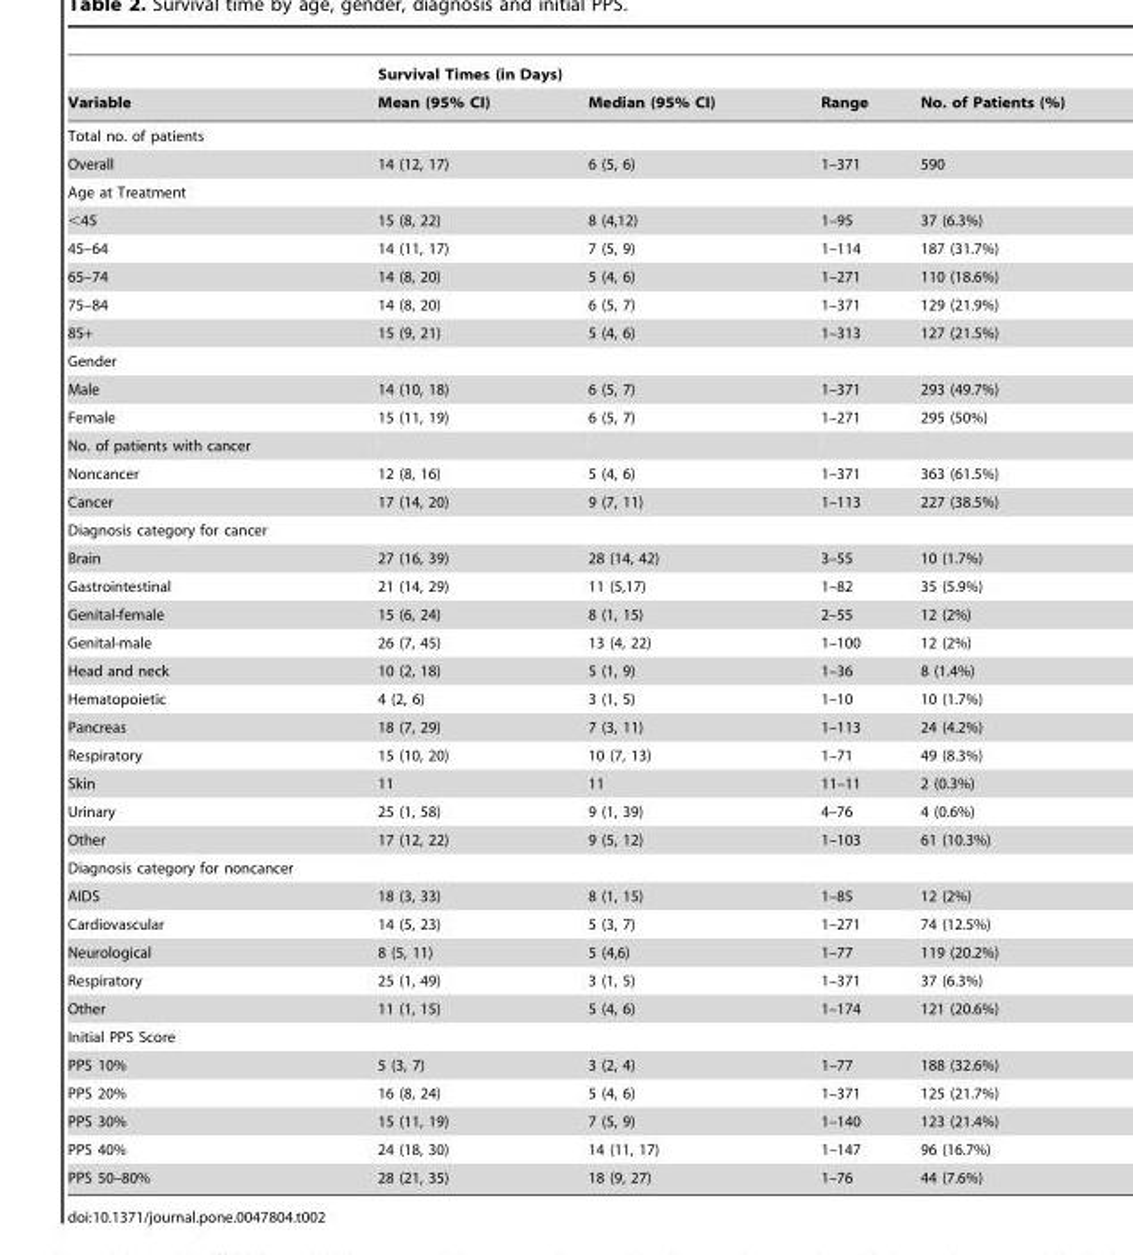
<table><thead><tr><td rowspan="2">Variable</td><td colspan="3">Survival Times (in Days)</td><td rowspan="2">No. of Patients (%)</td></tr><tr><td>Mean (95% CI)</td><td>Median (95% CI)</td><td>Range</td></tr></thead><tbody><tr><td colspan="5">Total no. of patients</td></tr><tr><td>Overall</td><td>14 (12, 17)</td><td>6 (5, 6)</td><td>1–371</td><td>590</td></tr><tr><td colspan="5">Age at Treatment</td></tr><tr><td>&lt;45</td><td>15 (8, 22)</td><td>8 (4,12)</td><td>1–95</td><td>37 (6.3%)</td></tr><tr><td>45–64</td><td>14 (11, 17)</td><td>7 (5, 9)</td><td>1–114</td><td>187 (31.7%)</td></tr><tr><td>65–74</td><td>14 (8, 20)</td><td>5 (4, 6)</td><td>1–271</td><td>110 (18.6%)</td></tr><tr><td>75–84</td><td>14 (8, 20)</td><td>6 (5, 7)</td><td>1–371</td><td>129 (21.9%)</td></tr><tr><td>85+</td><td>15 (9, 21)</td><td>5 (4, 6)</td><td>1–313</td><td>127 (21.5%)</td></tr><tr><td colspan="5">Gender</td></tr><tr><td>Male</td><td>14 (10, 18)</td><td>6 (5, 7)</td><td>1–371</td><td>293 (49.7%)</td></tr><tr><td>Female</td><td>15 (11, 19)</td><td>6 (5, 7)</td><td>1–271</td><td>295 (50%)</td></tr><tr><td colspan="5">No. of patients with cancer</td></tr><tr><td>Noncancer</td><td>12 (8, 16)</td><td>5 (4, 6)</td><td>1–371</td><td>363 (61.5%)</td></tr><tr><td>Cancer</td><td>17 (14, 20)</td><td>9 (7, 11)</td><td>1–113</td><td>227 (38.5%)</td></tr><tr><td colspan="5">Diagnosis category for cancer</td></tr><tr><td>Brain</td><td>27 (16, 39)</td><td>28 (14, 42)</td><td>3–55</td><td>10 (1.7%)</td></tr><tr><td>Gastrointestinal</td><td>21 (14, 29)</td><td>11 (5,17)</td><td>1–82</td><td>35 (5.9%)</td></tr><tr><td>Genital-female</td><td>15 (6, 24)</td><td>8 (1, 15)</td><td>2–55</td><td>12 (2%)</td></tr><tr><td>Genital-male</td><td>26 (7, 45)</td><td>13 (4, 22)</td><td>1–100</td><td>12 (2%)</td></tr><tr><td>Head and neck</td><td>10 (2, 18)</td><td>5 (1, 9)</td><td>1–36</td><td>8 (1.4%)</td></tr><tr><td>Hematopoietic</td><td>4 (2, 6)</td><td>3 (1, 5)</td><td>1–10</td><td>10 (1.7%)</td></tr><tr><td>Pancreas</td><td>18 (7, 29)</td><td>7 (3, 11)</td><td>1–113</td><td>24 (4.2%)</td></tr><tr><td>Respiratory</td><td>15 (10, 20)</td><td>10 (7, 13)</td><td>1–71</td><td>49 (8.3%)</td></tr><tr><td>Skin</td><td>11</td><td>11</td><td>11–11</td><td>2 (0.3%)</td></tr><tr><td>Urinary</td><td>25 (1, 58)</td><td>9 (1, 39)</td><td>4–76</td><td>4 (0.6%)</td></tr><tr><td>Other</td><td>17 (12, 22)</td><td>9 (5, 12)</td><td>1–103</td><td>61 (10.3%)</td></tr><tr><td colspan="5">Diagnosis category for noncancer</td></tr><tr><td>AIDS</td><td>18 (3, 33)</td><td>8 (1, 15)</td><td>1–85</td><td>12 (2%)</td></tr><tr><td>Cardiovascular</td><td>14 (5, 23)</td><td>5 (3, 7)</td><td>1–271</td><td>74 (12.5%)</td></tr><tr><td>Neurological</td><td>8 (5, 11)</td><td>5 (4,6)</td><td>1–77</td><td>119 (20.2%)</td></tr><tr><td>Respiratory</td><td>25 (1, 49)</td><td>3 (1, 5)</td><td>1–371</td><td>37 (6.3%)</td></tr><tr><td>Other</td><td>11 (1, 15)</td><td>5 (4, 6)</td><td>1–174</td><td>121 (20.6%)</td></tr><tr><td colspan="5">Initial PPS Score</td></tr><tr><td>PPS 10%</td><td>5 (3, 7)</td><td>3 (2, 4)</td><td>1–77</td><td>188 (32.6%)</td></tr><tr><td>PPS 20%</td><td>16 (8, 24)</td><td>5 (4, 6)</td><td>1–371</td><td>125 (21.7%)</td></tr><tr><td>PPS 30%</td><td>15 (11, 19)</td><td>7 (5, 9)</td><td>1–140</td><td>123 (21.4%)</td></tr><tr><td>PPS 40%</td><td>24 (18, 30)</td><td>14 (11, 17)</td><td>1–147</td><td>96 (16.7%)</td></tr><tr><td>PPS 50–80%</td><td>28 (21, 35)</td><td>18 (9, 27)</td><td>1–76</td><td>44 (7.6%)</td></tr></tbody></table>